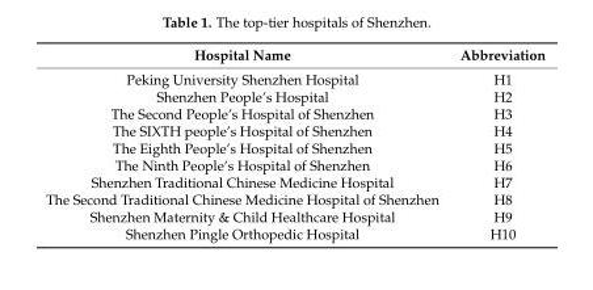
<table><thead><tr><td>Hospital Name</td><td>Abbreviation</td></tr></thead><tbody><tr><td>Peking University Shenzhen Hospital</td><td>H1</td></tr><tr><td>Shenzhen People’s Hospital</td><td>H2</td></tr><tr><td>The Second People’s Hospital of Shenzhen</td><td>H3</td></tr><tr><td>The SIXTH people’s Hospital of Shenzhen</td><td>H4</td></tr><tr><td>The Eighth People’s Hospital of Shenzhen</td><td>H5</td></tr><tr><td>The Ninth People’s Hospital of Shenzhen</td><td>H6</td></tr><tr><td>Shenzhen Traditional Chinese Medicine Hospital</td><td>H7</td></tr><tr><td>The Second Traditional Chinese Medicine Hospital of Shenzhen</td><td>H8</td></tr><tr><td>Shenzhen Maternity &amp; Child Healthcare Hospital</td><td>H9</td></tr><tr><td>Shenzhen Pingle Orthopedic Hospital</td><td>H10</td></tr></tbody></table>